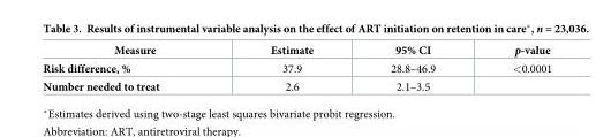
<table><thead><tr><td>Measure</td><td>Estimate</td><td>95% CI</td><td>p-value</td></tr></thead><tbody><tr><td>Risk difference, %</td><td>37.9</td><td>28.8–46.9</td><td>&lt;0.0001</td></tr><tr><td>Number needed to treat</td><td>2.6</td><td>2.1–3.5</td><td></td></tr></tbody></table>